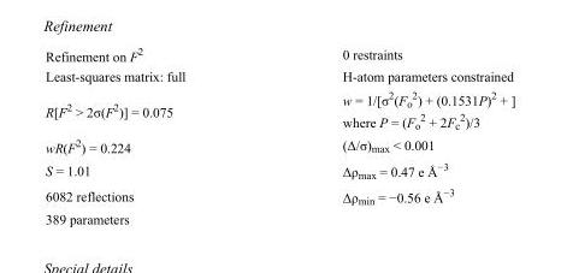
<table><tbody><tr><td>Refinement on F<sup>2</sup></td><td>0 restraints</td></tr><tr><td>Least-squares matrix: full</td><td>H-atom parameters constrained</td></tr><tr><td>R[F<sup>2</sup> &gt; 2σ(F<sup>2</sup>)] = 0.075</td><td>w = 1/[σ<sup>2</sup>(F<sub>o</sub> <sup>2</sup>) + (0.1531P)<sup>2</sup> + ] where P = (F<sub>o</sub> <sup>2</sup> + 2F<sub>c</sub> <sup>2</sup>)/3</td></tr><tr><td>wR(F<sup>2</sup>) = 0.224</td><td>(Δ/σ)<sub>max</sub> &lt; 0.001</td></tr><tr><td>S = 1.01</td><td>Δρ<sub>max</sub> = 0.47 e Å<sup>−3</sup></td></tr><tr><td>6082 reflections</td><td>Δρ<sub>min</sub> = −0.56 e Å<sup>−3</sup></td></tr><tr><td>389 parameters</td><td></td></tr></tbody></table>